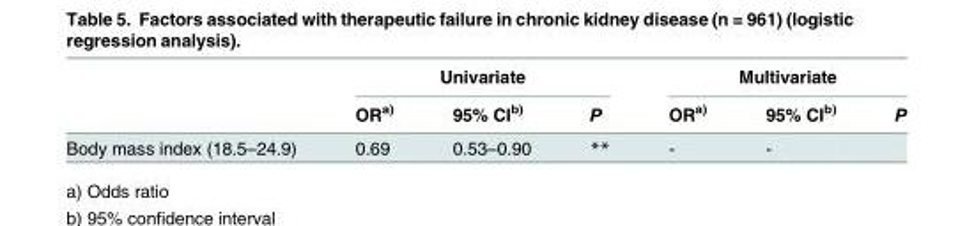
<table><thead><tr><td rowspan="2"></td><td colspan="3">Univariate</td><td colspan="3">Multivariate</td></tr><tr><td>OR<sup>a)</sup></td><td>95% CI<sup>b)</sup></td><td>P</td><td>OR<sup>a)</sup></td><td>95% CI<sup>b)</sup></td><td>P</td></tr></thead><tbody><tr><td>Body mass index (18.5–24.9)</td><td>0.69</td><td>0.53–0.90</td><td>**</td><td>-</td><td>-</td><td></td></tr></tbody></table>